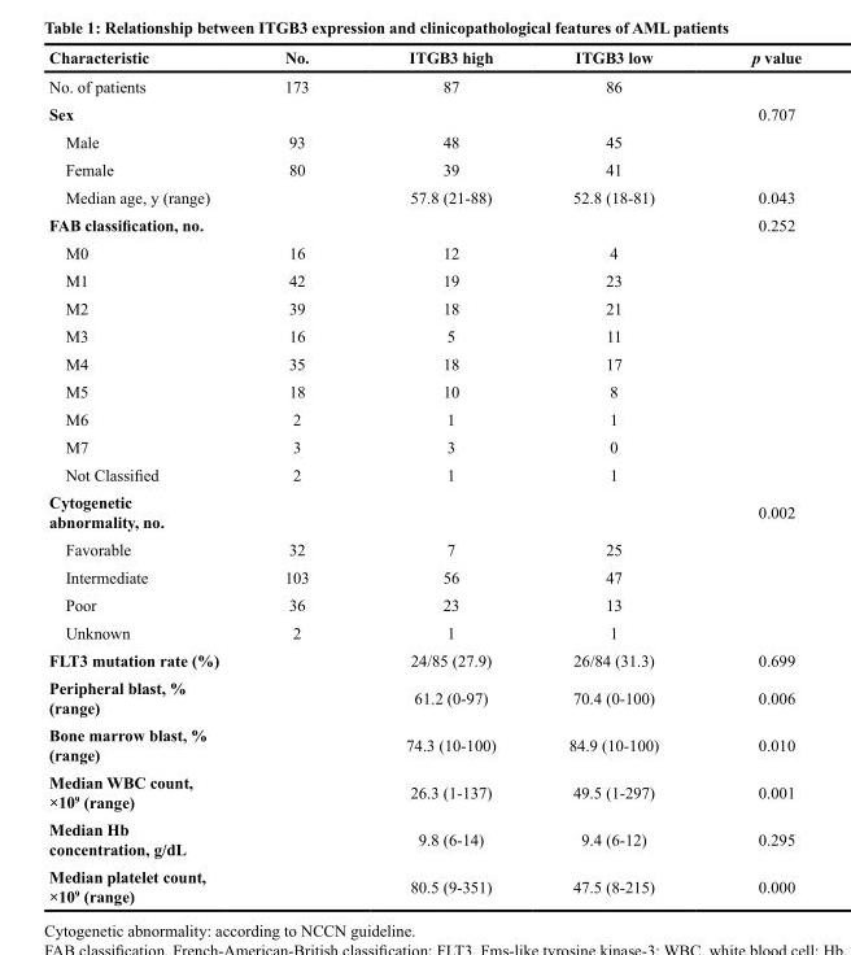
<table><thead><tr><td>Characteristic</td><td>No.</td><td>ITGB3 high</td><td>ITGB3 low</td><td>p value</td></tr></thead><tbody><tr><td>No. of patients</td><td>173</td><td>87</td><td>86</td><td></td></tr><tr><td>Sex</td><td></td><td></td><td></td><td>0.707</td></tr><tr><td>Male</td><td>93</td><td>48</td><td>45</td><td></td></tr><tr><td>Female</td><td>80</td><td>39</td><td>41</td><td></td></tr><tr><td>Median age, y (range)</td><td></td><td>57.8 (21-88)</td><td>52.8 (18-81)</td><td>0.043</td></tr><tr><td>FAB classification, no.</td><td></td><td></td><td></td><td>0.252</td></tr><tr><td>M0</td><td>16</td><td>12</td><td>4</td><td></td></tr><tr><td>M1</td><td>42</td><td>19</td><td>23</td><td></td></tr><tr><td>M2</td><td>39</td><td>18</td><td>21</td><td></td></tr><tr><td>M3</td><td>16</td><td>5</td><td>11</td><td></td></tr><tr><td>M4</td><td>35</td><td>18</td><td>17</td><td></td></tr><tr><td>M5</td><td>18</td><td>10</td><td>8</td><td></td></tr><tr><td>M6</td><td>2</td><td>1</td><td>1</td><td></td></tr><tr><td>M7</td><td>3</td><td>3</td><td>0</td><td></td></tr><tr><td>Not Classified</td><td>2</td><td>1</td><td>1</td><td></td></tr><tr><td>Cytogenetic abnormality, no.</td><td></td><td></td><td></td><td>0.002</td></tr><tr><td>Favorable</td><td>32</td><td>7</td><td>25</td><td></td></tr><tr><td>Intermediate</td><td>103</td><td>56</td><td>47</td><td></td></tr><tr><td>Poor</td><td>36</td><td>23</td><td>13</td><td></td></tr><tr><td>Unknown</td><td>2</td><td>1</td><td>1</td><td></td></tr><tr><td>FLT3 mutation rate (%)</td><td></td><td>24/85 (27.9)</td><td>26/84 (31.3)</td><td>0.699</td></tr><tr><td>Peripheral blast, % (range)</td><td></td><td>61.2 (0-97)</td><td>70.4 (0-100)</td><td>0.006</td></tr><tr><td>Bone marrow blast, % (range)</td><td></td><td>74.3 (10-100)</td><td>84.9 (10-100)</td><td>0.010</td></tr><tr><td>Median WBC count, ×10<sup>9</sup> (range)</td><td></td><td>26.3 (1-137)</td><td>49.5 (1-297)</td><td>0.001</td></tr><tr><td>Median Hb concentration, g/dL</td><td></td><td>9.8 (6-14)</td><td>9.4 (6-12)</td><td>0.295</td></tr><tr><td>Median platelet count, ×10<sup>9</sup> (range)</td><td></td><td>80.5 (9-351)</td><td>47.5 (8-215)</td><td>0.000</td></tr></tbody></table>